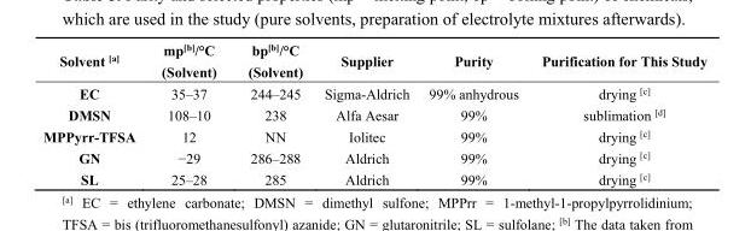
<table><thead><tr><td>Solvent <sup>[a]</sup></td><td>mp<sup>[b]</sup>/°C (Solvent)</td><td>bp<sup>[b]</sup>/°C (Solvent)</td><td>Supplier</td><td>Purity</td><td>Purification for This Study</td></tr></thead><tbody><tr><td>EC</td><td>35–37</td><td>244–245</td><td>Sigma-Aldrich</td><td>99% anhydrous</td><td>drying <sup>[c]</sup></td></tr><tr><td>DMSN</td><td>108–10</td><td>238</td><td>Alfa Aesar</td><td>99%</td><td>sublimation <sup>[d]</sup></td></tr><tr><td>MPPyrr-TFSA</td><td>12</td><td>NN</td><td>Iolitec</td><td>99%</td><td>drying <sup>[c]</sup></td></tr><tr><td>GN</td><td>−29</td><td>286–288</td><td>Aldrich</td><td>99%</td><td>drying <sup>[c]</sup></td></tr><tr><td>SL</td><td>25–28</td><td>285</td><td>Aldrich</td><td>99%</td><td>drying <sup>[c]</sup></td></tr></tbody></table>